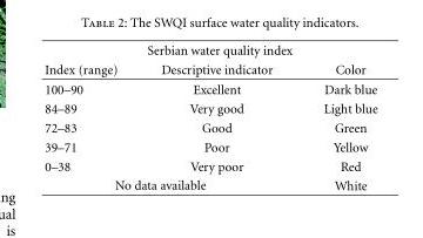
<table><thead><tr><td colspan="3">Serbian water quality index</td></tr><tr><td>Index (range)</td><td>Descriptive indicator</td><td>Color</td></tr></thead><tbody><tr><td>100–90</td><td>Excellent</td><td>Dark blue</td></tr><tr><td>84–89</td><td>Very good</td><td>Light blue</td></tr><tr><td>72–83</td><td>Good</td><td>Green</td></tr><tr><td>39–71</td><td>Poor</td><td>Yellow</td></tr><tr><td>0–38</td><td>Very poor</td><td>Red</td></tr><tr><td colspan="2">No data available</td><td>White</td></tr></tbody></table>